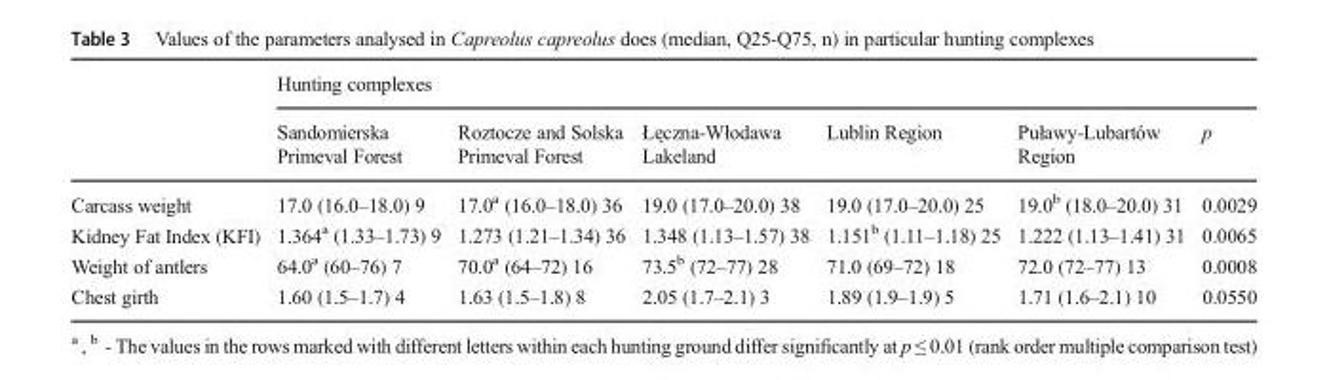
<table><thead><tr><td rowspan="2"></td><td colspan="6">Hunting complexes</td></tr><tr><td>Sandomierska Primeval Forest</td><td>Roztocze and Solska Primeval Forest</td><td>Łęczna-Włodawa Lakeland</td><td>Lublin Region</td><td>Puławy-Lubartów Region</td><td>p</td></tr></thead><tbody><tr><td>Carcass weight</td><td>17.0 (16.0–18.0) 9</td><td>17.0<sup>a</sup> (16.0–18.0) 36</td><td>19.0 (17.0–20.0) 38</td><td>19.0 (17.0–20.0) 25</td><td>19.0<sup>b</sup> (18.0–20.0) 31</td><td>0.0029</td></tr><tr><td>Kidney Fat Index (KFI)</td><td>1.364<sup>a</sup> (1.33–1.73) 9</td><td>1.273 (1.21–1.34) 36</td><td>1.348 (1.13–1.57) 38</td><td>1.151<sup>b</sup> (1.11–1.18) 25</td><td>1.222 (1.13–1.41) 31</td><td>0.0065</td></tr><tr><td>Weight of antlers</td><td>64.0<sup>a</sup> (60–76) 7</td><td>70.0<sup>a</sup> (64–72) 16</td><td>73.5<sup>b</sup> (72–77) 28</td><td>71.0 (69–72) 18</td><td>72.0 (72–77) 13</td><td>0.0008</td></tr><tr><td>Chest girth</td><td>1.60 (1.5–1.7) 4</td><td>1.63 (1.5–1.8) 8</td><td>2.05 (1.7–2.1) 3</td><td>1.89 (1.9–1.9) 5</td><td>1.71 (1.6–2.1) 10</td><td>0.0550</td></tr></tbody></table>